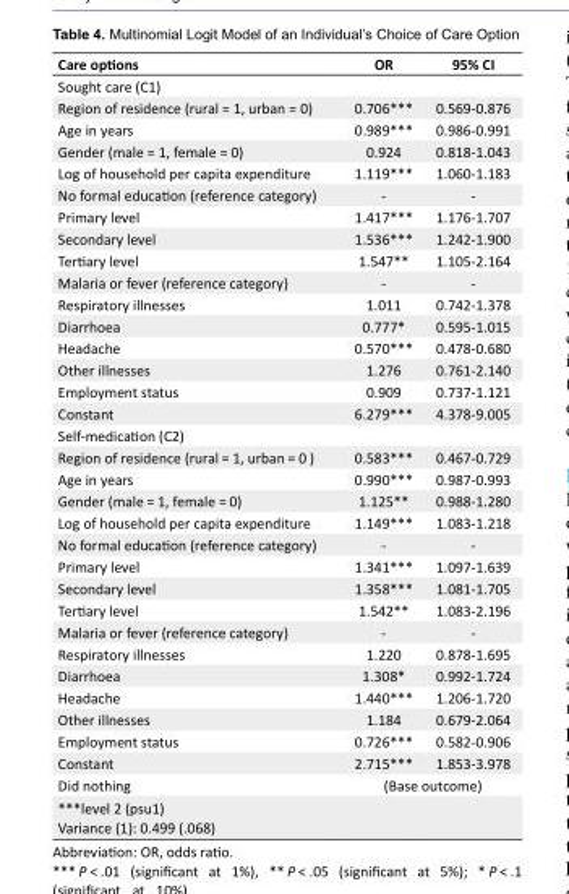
<table><tbody><tr><td>Care options</td><td>OR</td><td>95% CI</td></tr><tr><td colspan="3">Sought care (C1)</td></tr><tr><td>Region of residence (rural = 1, urban = 0)</td><td>0.706***</td><td>0.569-0.876</td></tr><tr><td>Age in years</td><td>0.989***</td><td>0.986-0.991</td></tr><tr><td>Gender (male = 1, female = 0)</td><td>0.924</td><td>0.818-1.043</td></tr><tr><td>Log of household per capita expenditure</td><td>1.119***</td><td>1.060-1.183</td></tr><tr><td>No formal education (reference category)</td><td>-</td><td>-</td></tr><tr><td>Primary level</td><td>1.417***</td><td>1.176-1.707</td></tr><tr><td>Secondary level</td><td>1.536***</td><td>1.242-1.900</td></tr><tr><td>Tertiary level</td><td>1.547**</td><td>1.105-2.164</td></tr><tr><td>Malaria or fever (reference category)</td><td>-</td><td>-</td></tr><tr><td>Respiratory illnesses</td><td>1.011</td><td>0.742-1.378</td></tr><tr><td>Diarrhoea</td><td>0.777*</td><td>0.595-1.015</td></tr><tr><td>Headache</td><td>0.570***</td><td>0.478-0.680</td></tr><tr><td>Other illnesses</td><td>1.276</td><td>0.761-2.140</td></tr><tr><td>Employment status</td><td>0.909</td><td>0.737-1.121</td></tr><tr><td>Constant</td><td>6.279***</td><td>4.378-9.005</td></tr><tr><td colspan="3">Self-medication (C2)</td></tr><tr><td>Region of residence (rural = 1, urban = 0 )</td><td>0.583***</td><td>0.467-0.729</td></tr><tr><td>Age in years</td><td>0.990***</td><td>0.987-0.993</td></tr><tr><td>Gender (male = 1, female = 0)</td><td>1.125**</td><td>0.988-1.280</td></tr><tr><td>Log of household per capita expenditure</td><td>1.149***</td><td>1.083-1.218</td></tr><tr><td>No formal education (reference category)</td><td>-</td><td>-</td></tr><tr><td>Primary level</td><td>1.341***</td><td>1.097-1.639</td></tr><tr><td>Secondary level</td><td>1.358***</td><td>1.081-1.705</td></tr><tr><td>Tertiary level</td><td>1.542**</td><td>1.083-2.196</td></tr><tr><td>Malaria or fever (reference category)</td><td>-</td><td>-</td></tr><tr><td>Respiratory illnesses</td><td>1.220</td><td>0.878-1.695</td></tr><tr><td>Diarrhoea</td><td>1.308*</td><td>0.992-1.724</td></tr><tr><td>Headache</td><td>1.440***</td><td>1.206-1.720</td></tr><tr><td>Other illnesses</td><td>1.184</td><td>0.679-2.064</td></tr><tr><td>Employment status</td><td>0.726***</td><td>0.582-0.906</td></tr><tr><td>Constant</td><td>2.715***</td><td>1.853-3.978</td></tr><tr><td>Did nothing</td><td colspan="2">(Base outcome)</td></tr><tr><td>***level 2 (psu1) Variance (1): 0.499 (.068)</td><td></td><td></td></tr></tbody></table>